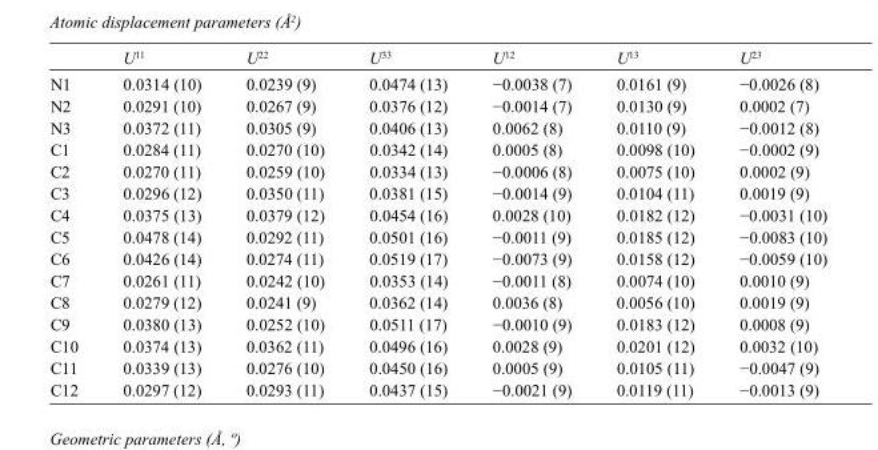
<table><thead><tr><td></td><td>U<sup>11</sup></td><td>U<sup>22</sup></td><td>U<sup>33</sup></td><td>U<sup>12</sup></td><td>U<sup>13</sup></td><td>U<sup>23</sup></td></tr></thead><tbody><tr><td>N1</td><td>0.0314 (10)</td><td>0.0239 (9)</td><td>0.0474 (13)</td><td>−0.0038 (7)</td><td>0.0161 (9)</td><td>−0.0026 (8)</td></tr><tr><td>N2</td><td>0.0291 (10)</td><td>0.0267 (9)</td><td>0.0376 (12)</td><td>−0.0014 (7)</td><td>0.0130 (9)</td><td>0.0002 (7)</td></tr><tr><td>N3</td><td>0.0372 (11)</td><td>0.0305 (9)</td><td>0.0406 (13)</td><td>0.0062 (8)</td><td>0.0110 (9)</td><td>−0.0012 (8)</td></tr><tr><td>C1</td><td>0.0284 (11)</td><td>0.0270 (10)</td><td>0.0342 (14)</td><td>0.0005 (8)</td><td>0.0098 (10)</td><td>−0.0002 (9)</td></tr><tr><td>C2</td><td>0.0270 (11)</td><td>0.0259 (10)</td><td>0.0334 (13)</td><td>−0.0006 (8)</td><td>0.0075 (10)</td><td>0.0002 (9)</td></tr><tr><td>C3</td><td>0.0296 (12)</td><td>0.0350 (11)</td><td>0.0381 (15)</td><td>−0.0014 (9)</td><td>0.0104 (11)</td><td>0.0019 (9)</td></tr><tr><td>C4</td><td>0.0375 (13)</td><td>0.0379 (12)</td><td>0.0454 (16)</td><td>0.0028 (10)</td><td>0.0182 (12)</td><td>−0.0031 (10)</td></tr><tr><td>C5</td><td>0.0478 (14)</td><td>0.0292 (11)</td><td>0.0501 (16)</td><td>−0.0011 (9)</td><td>0.0185 (12)</td><td>−0.0083 (10)</td></tr><tr><td>C6</td><td>0.0426 (14)</td><td>0.0274 (11)</td><td>0.0519 (17)</td><td>−0.0073 (9)</td><td>0.0158 (12)</td><td>−0.0059 (10)</td></tr><tr><td>C7</td><td>0.0261 (11)</td><td>0.0242 (10)</td><td>0.0353 (14)</td><td>−0.0011 (8)</td><td>0.0074 (10)</td><td>0.0010 (9)</td></tr><tr><td>C8</td><td>0.0279 (12)</td><td>0.0241 (9)</td><td>0.0362 (14)</td><td>0.0036 (8)</td><td>0.0056 (10)</td><td>0.0019 (9)</td></tr><tr><td>C9</td><td>0.0380 (13)</td><td>0.0252 (10)</td><td>0.0511 (17)</td><td>−0.0010 (9)</td><td>0.0183 (12)</td><td>0.0008 (9)</td></tr><tr><td>C10</td><td>0.0374 (13)</td><td>0.0362 (11)</td><td>0.0496 (16)</td><td>0.0028 (9)</td><td>0.0201 (12)</td><td>0.0032 (10)</td></tr><tr><td>C11</td><td>0.0339 (13)</td><td>0.0276 (10)</td><td>0.0450 (16)</td><td>0.0005 (9)</td><td>0.0105 (11)</td><td>−0.0047 (9)</td></tr><tr><td>C12</td><td>0.0297 (12)</td><td>0.0293 (11)</td><td>0.0437 (15)</td><td>−0.0021 (9)</td><td>0.0119 (11)</td><td>−0.0013 (9)</td></tr></tbody></table>